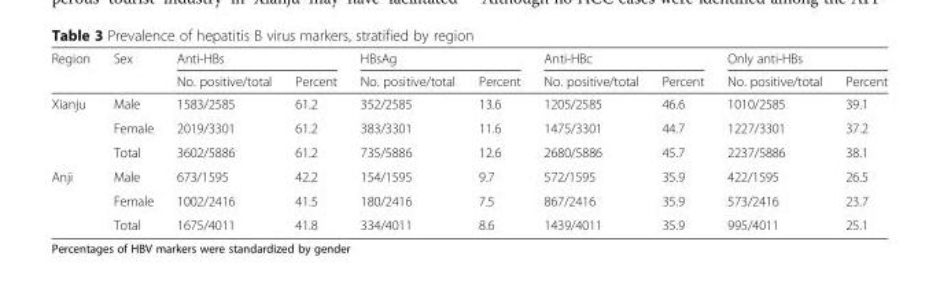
<table><thead><tr><td rowspan="2">Region</td><td rowspan="2">Sex</td><td colspan="2">Anti-HBs</td><td colspan="2">HBsAg</td><td colspan="2">Anti-HBc</td><td colspan="2">Only anti-HBs</td></tr><tr><td>No. positive/total</td><td>Percent</td><td>No. positive/total</td><td>Percent</td><td>No. positive/total</td><td>Percent</td><td>No. positive/total</td><td>Percent</td></tr></thead><tbody><tr><td rowspan="3">Xianju</td><td>Male</td><td>1583/2585</td><td>61.2</td><td>352/2585</td><td>13.6</td><td>1205/2585</td><td>46.6</td><td>1010/2585</td><td>39.1</td></tr><tr><td>Female</td><td>2019/3301</td><td>61.2</td><td>383/3301</td><td>11.6</td><td>1475/3301</td><td>44.7</td><td>1227/3301</td><td>37.2</td></tr><tr><td>Total</td><td>3602/5886</td><td>61.2</td><td>735/5886</td><td>12.6</td><td>2680/5886</td><td>45.7</td><td>2237/5886</td><td>38.1</td></tr><tr><td rowspan="3">Anji</td><td>Male</td><td>673/1595</td><td>42.2</td><td>154/1595</td><td>9.7</td><td>572/1595</td><td>35.9</td><td>422/1595</td><td>26.5</td></tr><tr><td>Female</td><td>1002/2416</td><td>41.5</td><td>180/2416</td><td>7.5</td><td>867/2416</td><td>35.9</td><td>573/2416</td><td>23.7</td></tr><tr><td>Total</td><td>1675/4011</td><td>41.8</td><td>334/4011</td><td>8.6</td><td>1439/4011</td><td>35.9</td><td>995/4011</td><td>25.1</td></tr></tbody></table>